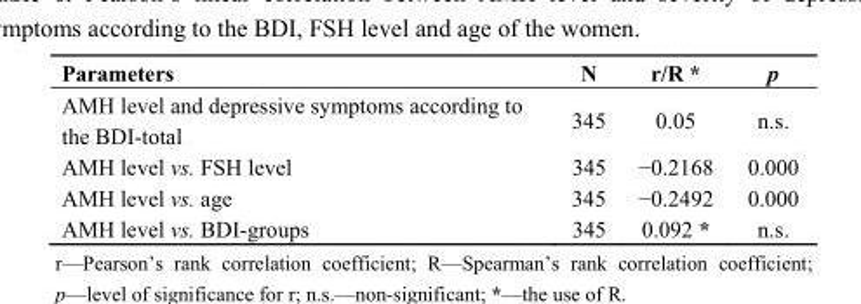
<table><thead><tr><td>Parameters</td><td>N</td><td>r/R *</td><td>p</td></tr></thead><tbody><tr><td>AMH level and depressive symptoms according to the BDI-total</td><td>345</td><td>0.05</td><td>n.s.</td></tr><tr><td>AMH level vs. FSH level</td><td>345</td><td>−0.2168</td><td>0.000</td></tr><tr><td>AMH level vs. age</td><td>345</td><td>−0.2492</td><td>0.000</td></tr><tr><td>AMH level vs. BDI-groups</td><td>345</td><td>0.092 *</td><td>n.s.</td></tr></tbody></table>